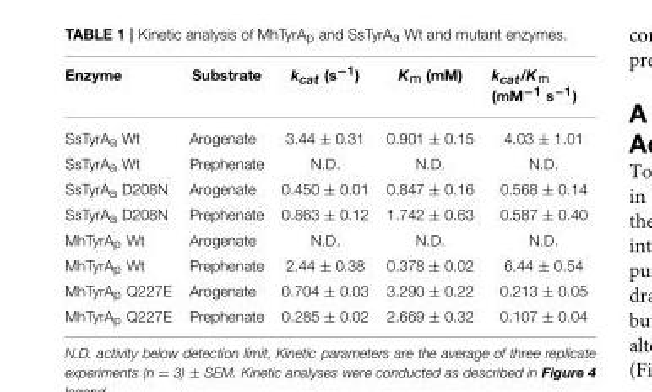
<table><thead><tr><td>Enzyme</td><td>Substrate</td><td>kcat (s−1)</td><td>K<sub>m</sub> (mM)</td><td>kcat/Km (mM−1 s−1)</td></tr></thead><tbody><tr><td>SsTyrA<sub>a</sub> Wt</td><td>Arogenate</td><td>3.44 ± 0.31</td><td>0.901 ± 0.15</td><td>4.03 ± 1.01</td></tr><tr><td>SsTyrA<sub>a</sub> Wt</td><td>Prephenate</td><td>N.D.</td><td>N.D.</td><td>N.D.</td></tr><tr><td>SsTyrA<sub>a</sub> D208N</td><td>Arogenate</td><td>0.450 ± 0.01</td><td>0.847 ± 0.16</td><td>0.568 ± 0.14</td></tr><tr><td>SsTyrA<sub>a</sub> D208N</td><td>Prephenate</td><td>0.863 ± 0.12</td><td>1.742 ± 0.63</td><td>0.587 ± 0.40</td></tr><tr><td>MhTyrA<sub>p</sub> Wt</td><td>Arogenate</td><td>N.D.</td><td>N.D.</td><td>N.D.</td></tr><tr><td>MhTyrA<sub>p</sub> Wt</td><td>Prephenate</td><td>2.44 ± 0.38</td><td>0.378 ± 0.02</td><td>6.44 ± 0.54</td></tr><tr><td>MhTyrA<sub>p</sub> Q227E</td><td>Arogenate</td><td>0.704 ± 0.03</td><td>3.290 ± 0.22</td><td>0.213 ± 0.05</td></tr><tr><td>MhTyrA<sub>p</sub> Q227E</td><td>Prephenate</td><td>0.285 ± 0.02</td><td>2.669 ± 0.32</td><td>0.107 ± 0.04</td></tr></tbody></table>